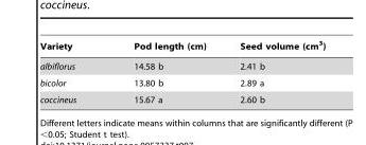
<table><thead><tr><td>Variety</td><td>Pod length (cm)</td><td>Seed volume (cm<sup>3</sup>)</td></tr></thead><tbody><tr><td>albiflorus</td><td>14.58 b</td><td>2.41 b</td></tr><tr><td>bicolor</td><td>13.80 b</td><td>2.89 a</td></tr><tr><td>coccineus</td><td>15.67 a</td><td>2.60 b</td></tr></tbody></table>